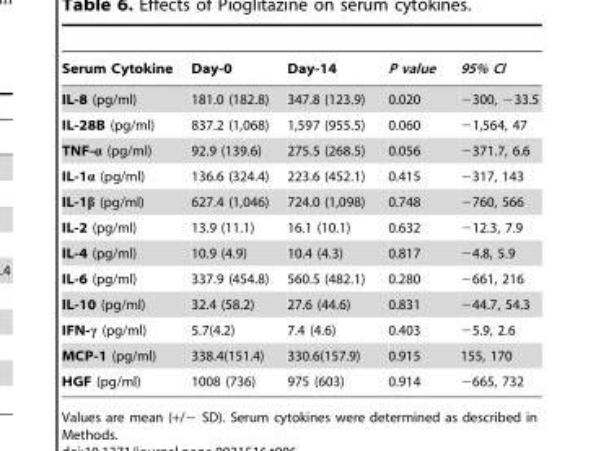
<table><thead><tr><td>Serum Cytokine</td><td>Day-0</td><td>Day-14</td><td>P value</td><td>95% CI</td></tr></thead><tbody><tr><td>IL-8 (pg/ml)</td><td>181.0 (182.8)</td><td>347.8 (123.9)</td><td>0.020</td><td>−300, −33.5</td></tr><tr><td>IL-28B (pg/ml)</td><td>837.2 (1,068)</td><td>1,597 (955.5)</td><td>0.060</td><td>−1,564, 47</td></tr><tr><td>TNF-α (pg/ml)</td><td>92.9 (139.6)</td><td>275.5 (268.5)</td><td>0.056</td><td>−371.7, 6.6</td></tr><tr><td>IL-1α (pg/ml)</td><td>136.6 (324.4)</td><td>223.6 (452.1)</td><td>0.415</td><td>−317, 143</td></tr><tr><td>IL-1β (pg/ml)</td><td>627.4 (1,046)</td><td>724.0 (1,098)</td><td>0.748</td><td>−760, 566</td></tr><tr><td>IL-2 (pg/ml)</td><td>13.9 (11.1)</td><td>16.1 (10.1)</td><td>0.632</td><td>−12.3, 7.9</td></tr><tr><td>IL-4 (pg/ml)</td><td>10.9 (4.9)</td><td>10.4 (4.3)</td><td>0.817</td><td>−4.8, 5.9</td></tr><tr><td>IL-6 (pg/ml)</td><td>337.9 (454.8)</td><td>560.5 (482.1)</td><td>0.280</td><td>−661, 216</td></tr><tr><td>IL-10 (pg/ml)</td><td>32.4 (58.2)</td><td>27.6 (44.6)</td><td>0.831</td><td>−44.7, 54.3</td></tr><tr><td>IFN-γ (pg/ml)</td><td>5.7(4.2)</td><td>7.4 (4.6)</td><td>0.403</td><td>−5.9, 2.6</td></tr><tr><td>MCP-1 (pg/ml)</td><td>338.4(151.4)</td><td>330.6(157.9)</td><td>0.915</td><td>155, 170</td></tr><tr><td>HGF (pg/ml)</td><td>1008 (736)</td><td>975 (603)</td><td>0.914</td><td>−665, 732</td></tr></tbody></table>